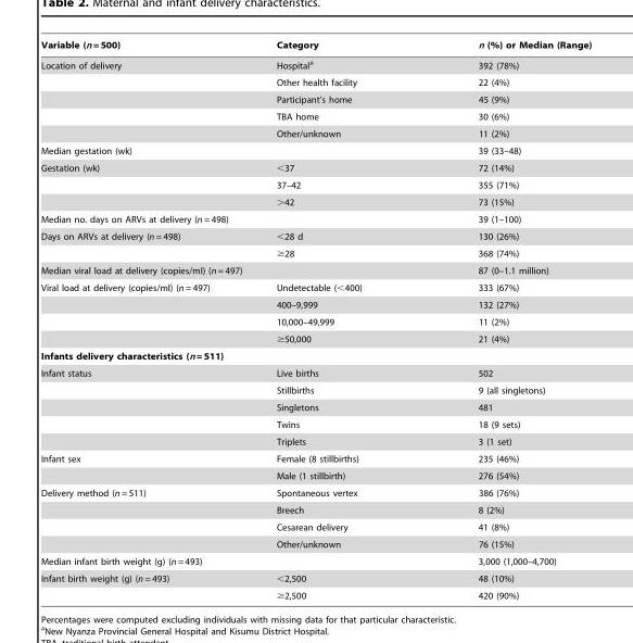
<table><thead><tr><td>Variable (n = 500)</td><td>Category</td><td>n (%) or Median (Range)</td></tr></thead><tbody><tr><td rowspan="5">Location of delivery</td><td>Hospital<sup>a</sup></td><td>392 (78%)</td></tr><tr><td>Other health facility</td><td>22 (4%)</td></tr><tr><td>Participant’s home</td><td>45 (9%)</td></tr><tr><td>TBA home</td><td>30 (6%)</td></tr><tr><td>Other/unknown</td><td>11 (2%)</td></tr><tr><td>Median gestation (wk)</td><td></td><td>39 (33–48)</td></tr><tr><td rowspan="3">Gestation (wk)</td><td>&lt;37</td><td>72 (14%)</td></tr><tr><td>37–42</td><td>355 (71%)</td></tr><tr><td>&gt;42</td><td>73 (15%)</td></tr><tr><td>Median no. days on ARVs at delivery (n = 498)</td><td></td><td>39 (1–100)</td></tr><tr><td rowspan="2">Days on ARVs at delivery (n = 498)</td><td>&lt;28 d</td><td>130 (26%)</td></tr><tr><td>≥28</td><td>368 (74%)</td></tr><tr><td>Median viral load at delivery (copies/ml) (n = 497)</td><td></td><td>87 (0–1.1 million)</td></tr><tr><td rowspan="4">Viral load at delivery (copies/ml) (n = 497)</td><td>Undetectable (&lt;400)</td><td>333 (67%)</td></tr><tr><td>400–9,999</td><td>132 (27%)</td></tr><tr><td>10,000–49,999</td><td>11 (2%)</td></tr><tr><td>≥50,000</td><td>21 (4%)</td></tr><tr><td colspan="3">Infants delivery characteristics (n = 511)</td></tr><tr><td rowspan="5">Infant status</td><td>Live births</td><td>502</td></tr><tr><td>Stillbirths</td><td>9 (all singletons)</td></tr><tr><td>Singletons</td><td>481</td></tr><tr><td>Twins</td><td>18 (9 sets)</td></tr><tr><td>Triplets</td><td>3 (1 set)</td></tr><tr><td rowspan="2">Infant sex</td><td>Female (8 stillbirths)</td><td>235 (46%)</td></tr><tr><td>Male (1 stillbirth)</td><td>276 (54%)</td></tr><tr><td rowspan="4">Delivery method (n = 511)</td><td>Spontaneous vertex</td><td>386 (76%)</td></tr><tr><td>Breech</td><td>8 (2%)</td></tr><tr><td>Cesarean delivery</td><td>41 (8%)</td></tr><tr><td>Other/unknown</td><td>76 (15%)</td></tr><tr><td>Median infant birth weight (g) (n = 493)</td><td></td><td>3,000 (1,000–4,700)</td></tr><tr><td rowspan="2">Infant birth weight (g) (n = 493)</td><td>&lt;2,500</td><td>48 (10%)</td></tr><tr><td>≥2,500</td><td>420 (90%)</td></tr></tbody></table>